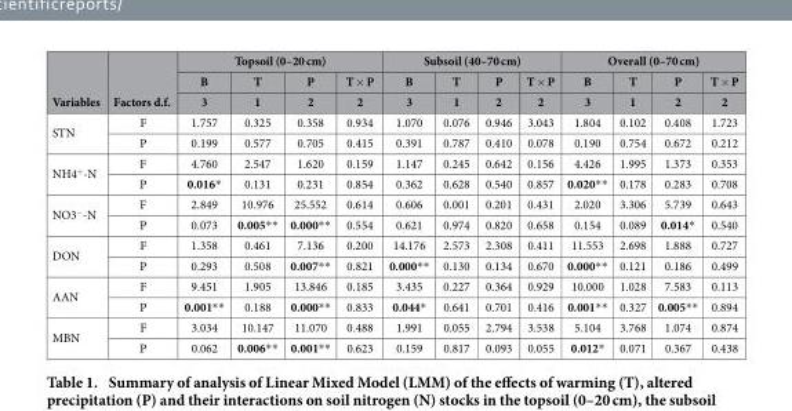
<table><thead><tr><td rowspan="3">Variables</td><td rowspan="3">Factors d.f.</td><td colspan="4">Topsoil (0–20 cm)</td><td colspan="4">Subsoil (40–70 cm)</td><td colspan="4">Overall (0–70 cm)</td></tr><tr><td rowspan="2">B 3</td><td rowspan="2">T 1</td><td rowspan="2">P 2</td><td rowspan="2">T × P 2</td><td rowspan="2">B 3</td><td rowspan="2">T 1</td><td rowspan="2">P 2</td><td rowspan="2">T × P 2</td><td rowspan="2">B 3</td><td rowspan="2">T 1</td><td rowspan="2">P 2</td><td rowspan="2">T × P 2</td></tr><tr></tr></thead><tbody><tr><td rowspan="2">STN</td><td>F</td><td>1.757</td><td>0.325</td><td>0.358</td><td>0.934</td><td>1.070</td><td>0.076</td><td>0.946</td><td>3.043</td><td>1.804</td><td>0.102</td><td>0.408</td><td>1.723</td></tr><tr><td>P</td><td>0.199</td><td>0.577</td><td>0.705</td><td>0.415</td><td>0.391</td><td>0.787</td><td>0.410</td><td>0.078</td><td>0.190</td><td>0.754</td><td>0.672</td><td>0.212</td></tr><tr><td rowspan="2">NH4<sup>+</sup>-N</td><td>F</td><td>4.760</td><td>2.547</td><td>1.620</td><td>0.159</td><td>1.147</td><td>0.245</td><td>0.642</td><td>0.156</td><td>4.426</td><td>1.995</td><td>1.373</td><td>0.353</td></tr><tr><td>P</td><td>0.016*</td><td>0.131</td><td>0.231</td><td>0.854</td><td>0.362</td><td>0.628</td><td>0.540</td><td>0.857</td><td>0.020* *</td><td>0.178</td><td>0.283</td><td>0.708</td></tr><tr><td rowspan="2">NO3<sup>−</sup>-N</td><td>F</td><td>2.849</td><td>10.976</td><td>25.552</td><td>0.614</td><td>0.606</td><td>0.001</td><td>0.201</td><td>0.431</td><td>2.020</td><td>3.306</td><td>5.739</td><td>0.643</td></tr><tr><td>P</td><td>0.073</td><td>0.005* *</td><td>0.000* *</td><td>0.554</td><td>0.621</td><td>0.974</td><td>0.820</td><td>0.658</td><td>0.154</td><td>0.089</td><td>0.014*</td><td>0.540</td></tr><tr><td rowspan="2">DON</td><td>F</td><td>1.358</td><td>0.461</td><td>7.136</td><td>0.200</td><td>14.176</td><td>2.573</td><td>2.308</td><td>0.411</td><td>11.553</td><td>2.698</td><td>1.888</td><td>0.727</td></tr><tr><td>P</td><td>0.293</td><td>0.508</td><td>0.007* *</td><td>0.821</td><td>0.000* *</td><td>0.130</td><td>0.134</td><td>0.670</td><td>0.000* *</td><td>0.121</td><td>0.186</td><td>0.499</td></tr><tr><td rowspan="2">AAN</td><td>F</td><td>9.451</td><td>1.905</td><td>13.846</td><td>0.185</td><td>3.435</td><td>0.227</td><td>0.364</td><td>0.929</td><td>10.000</td><td>1.028</td><td>7.583</td><td>0.113</td></tr><tr><td>P</td><td>0.001* *</td><td>0.188</td><td>0.000* *</td><td>0.833</td><td>0.044*</td><td>0.641</td><td>0.701</td><td>0.416</td><td>0.001* *</td><td>0.327</td><td>0.005* *</td><td>0.894</td></tr><tr><td rowspan="2">MBN</td><td>F</td><td>3.034</td><td>10.147</td><td>11.070</td><td>0.488</td><td>1.991</td><td>0.055</td><td>2.794</td><td>3.538</td><td>5.104</td><td>3.768</td><td>1.074</td><td>0.874</td></tr><tr><td>P</td><td>0.062</td><td>0.006* *</td><td>0.001* *</td><td>0.623</td><td>0.159</td><td>0.817</td><td>0.093</td><td>0.055</td><td>0.012*</td><td>0.071</td><td>0.367</td><td>0.438</td></tr></tbody></table>